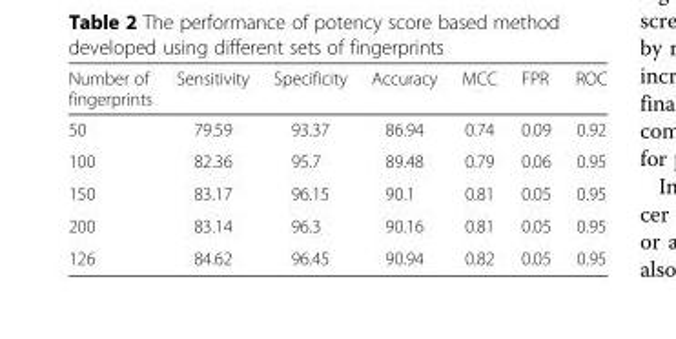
<table><thead><tr><td>Number of fingerprints</td><td>Sensitivity</td><td>Specificity</td><td>Accuracy</td><td>MCC</td><td>FPR</td><td>ROC</td></tr></thead><tbody><tr><td>50</td><td>79.59</td><td>93.37</td><td>86.94</td><td>0.74</td><td>0.09</td><td>0.92</td></tr><tr><td>100</td><td>82.36</td><td>95.7</td><td>89.48</td><td>0.79</td><td>0.06</td><td>0.95</td></tr><tr><td>150</td><td>83.17</td><td>96.15</td><td>90.1</td><td>0.81</td><td>0.05</td><td>0.95</td></tr><tr><td>200</td><td>83.14</td><td>96.3</td><td>90.16</td><td>0.81</td><td>0.05</td><td>0.95</td></tr><tr><td>126</td><td>84.62</td><td>96.45</td><td>90.94</td><td>0.82</td><td>0.05</td><td>0.95</td></tr></tbody></table>